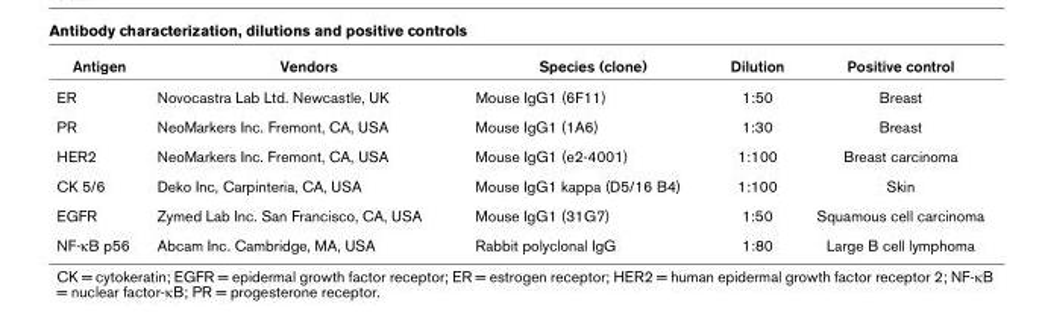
<table><thead><tr><td>Antigen</td><td>Vendors</td><td>Species (clone)</td><td>Dilution</td><td>Positive control</td></tr></thead><tbody><tr><td>ER</td><td>Novocastra Lab Ltd. Newcastle, UK</td><td>Mouse IgG1 (6F11)</td><td>1:50</td><td>Breast</td></tr><tr><td>PR</td><td>NeoMarkers Inc. Fremont, CA, USA</td><td>Mouse IgG1 (1A6)</td><td>1:30</td><td>Breast</td></tr><tr><td>HER2</td><td>NeoMarkers Inc. Fremont, CA, USA</td><td>Mouse IgG1 (e2-4001)</td><td>1:100</td><td>Breast carcinoma</td></tr><tr><td>CK 5/6</td><td>Deko Inc, Carpinteria, CA, USA</td><td>Mouse IgG1 kappa (D5/16 B4)</td><td>1:100</td><td>Skin</td></tr><tr><td>EGFR</td><td>Zymed Lab Inc. San Francisco, CA, USA</td><td>Mouse IgG1 (31G7)</td><td>1:50</td><td>Squamous cell carcinoma</td></tr><tr><td>NF-κB p56</td><td>Abcam Inc. Cambridge, MA, USA</td><td>Rabbit polyclonal IgG</td><td>1:80</td><td>Large B cell lymphoma</td></tr></tbody></table>